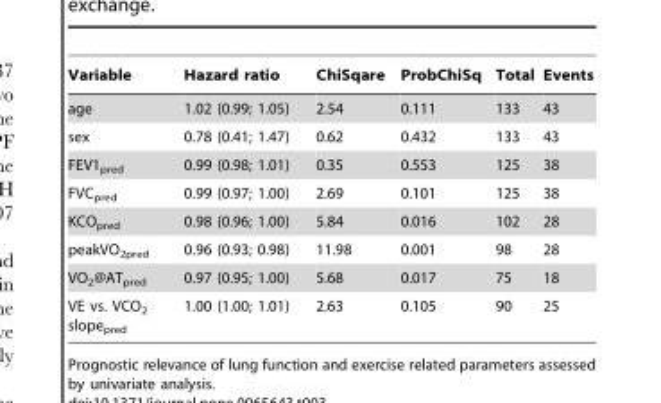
<table><thead><tr><td>Variable</td><td>Hazard ratio</td><td>ChiSqare</td><td>ProbChiSq</td><td>Total</td><td>Events</td></tr></thead><tbody><tr><td>age</td><td>1.02 (0.99; 1.05)</td><td>2.54</td><td>0.111</td><td>133</td><td>43</td></tr><tr><td>sex</td><td>0.78 (0.41; 1.47)</td><td>0.62</td><td>0.432</td><td>133</td><td>43</td></tr><tr><td>FEV1<sub>pred</sub></td><td>0.99 (0.98; 1.01)</td><td>0.35</td><td>0.553</td><td>125</td><td>38</td></tr><tr><td>FVC<sub>pred</sub></td><td>0.99 (0.97; 1.00)</td><td>2.69</td><td>0.101</td><td>125</td><td>38</td></tr><tr><td>KCO<sub>pred</sub></td><td>0.98 (0.96; 1.00)</td><td>5.84</td><td>0.016</td><td>102</td><td>28</td></tr><tr><td>peakVO<sub>2pred</sub></td><td>0.96 (0.93; 0.98)</td><td>11.98</td><td>0.001</td><td>98</td><td>28</td></tr><tr><td>VO<sub>2</sub>@AT<sub>pred</sub></td><td>0.97 (0.95; 1.00)</td><td>5.68</td><td>0.017</td><td>75</td><td>18</td></tr><tr><td>VE vs. VCO<sub>2</sub> slope<sub>pred</sub></td><td>1.00 (1.00; 1.01)</td><td>2.63</td><td>0.105</td><td>90</td><td>25</td></tr></tbody></table>